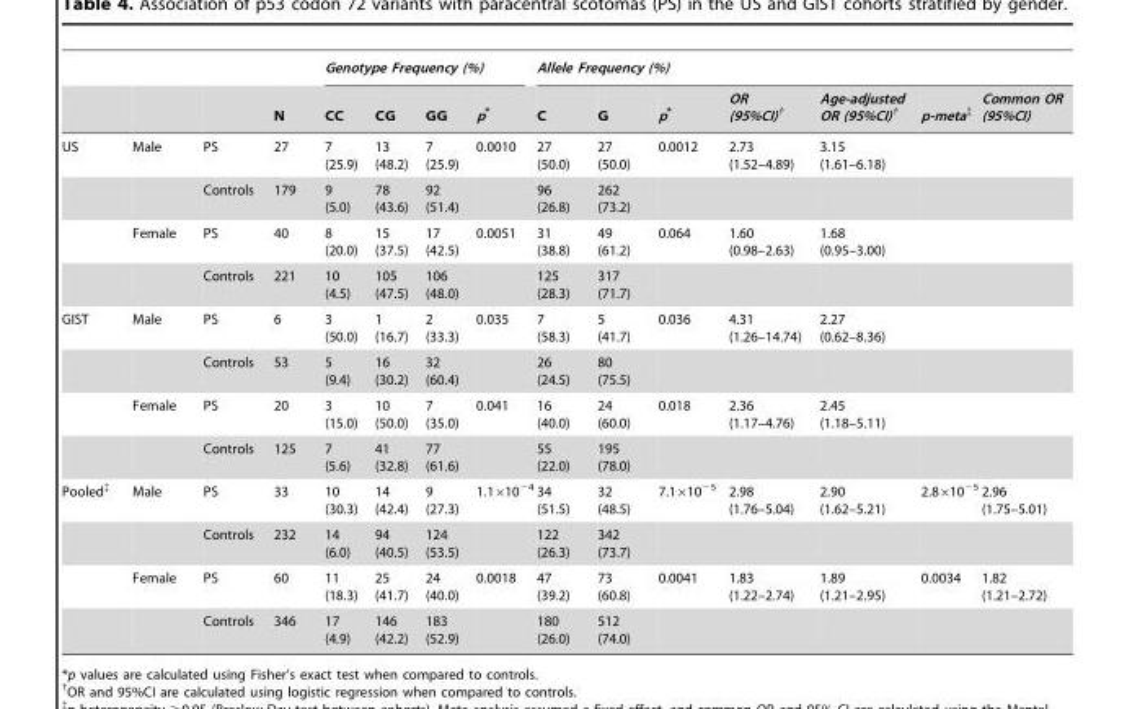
<table><thead><tr><td rowspan="2"></td><td rowspan="2"></td><td rowspan="2"></td><td rowspan="2">N</td><td colspan="4">Genotype Frequency (%)</td><td colspan="7">Allele Frequency (%)</td></tr><tr><td>CC</td><td>CG</td><td>GG</td><td>p*</td><td>C</td><td>G</td><td>p*</td><td>OR (95%CI)†</td><td>Age-adjusted OR (95%CI)†</td><td>p-meta‡</td><td>Common OR (95%CI)</td></tr></thead><tbody><tr><td rowspan="4">US</td><td>Male</td><td>PS</td><td>27</td><td>7 (25.9)</td><td>13 (48.2)</td><td>7 (25.9)</td><td>0.0010</td><td>27 (50.0)</td><td>27 (50.0)</td><td>0.0012</td><td>2.73 (1.52–4.89)</td><td>3.15 (1.61–6.18)</td><td></td><td></td></tr><tr><td></td><td>Controls</td><td>179</td><td>9 (5.0)</td><td>78 (43.6)</td><td>92 (51.4)</td><td></td><td>96 (26.8)</td><td>262 (73.2)</td><td></td><td></td><td></td><td></td><td></td></tr><tr><td>Female</td><td>PS</td><td>40</td><td>8 (20.0)</td><td>15 (37.5)</td><td>17 (42.5)</td><td>0.0051</td><td>31 (38.8)</td><td>49 (61.2)</td><td>0.064</td><td>1.60 (0.98–2.63)</td><td>1.68 (0.95–3.00)</td><td></td><td></td></tr><tr><td></td><td>Controls</td><td>221</td><td>10 (4.5)</td><td>105 (47.5)</td><td>106 (48.0)</td><td></td><td>125 (28.3)</td><td>317 (71.7)</td><td></td><td></td><td></td><td></td><td></td></tr><tr><td rowspan="4">GIST</td><td>Male</td><td>PS</td><td>6</td><td>3 (50.0)</td><td>1 (16.7)</td><td>2 (33.3)</td><td>0.035</td><td>7 (58.3)</td><td>5 (41.7)</td><td>0.036</td><td>4.31 (1.26–14.74)</td><td>2.27 (0.62–8.36)</td><td></td><td></td></tr><tr><td></td><td>Controls</td><td>53</td><td>5 (9.4)</td><td>16 (30.2)</td><td>32 (60.4)</td><td></td><td>26 (24.5)</td><td>80 (75.5)</td><td></td><td></td><td></td><td></td><td></td></tr><tr><td>Female</td><td>PS</td><td>20</td><td>3 (15.0)</td><td>10 (50.0)</td><td>7 (35.0)</td><td>0.041</td><td>16 (40.0)</td><td>24 (60.0)</td><td>0.018</td><td>2.36 (1.17–4.76)</td><td>2.45 (1.18–5.11)</td><td></td><td></td></tr><tr><td></td><td>Controls</td><td>125</td><td>7 (5.6)</td><td>41 (32.8)</td><td>77 (61.6)</td><td></td><td>55 (22.0)</td><td>195 (78.0)</td><td></td><td></td><td></td><td></td><td></td></tr><tr><td rowspan="4">Pooled‡</td><td>Male</td><td>PS</td><td>33</td><td>10 (30.3)</td><td>14 (42.4)</td><td>9 (27.3)</td><td>1.1×10<sup>−4</sup></td><td>34 (51.5)</td><td>32 (48.5)</td><td>7.1×10<sup>−5</sup></td><td>2.98 (1.76–5.04)</td><td>2.90 (1.62–5.21)</td><td>2.8×10<sup>−5</sup></td><td>2.96 (1.75–5.01)</td></tr><tr><td></td><td>Controls</td><td>232</td><td>14 (6.0)</td><td>94 (40.5)</td><td>124 (53.5)</td><td></td><td>122 (26.3)</td><td>342 (73.7)</td><td></td><td></td><td></td><td></td><td></td></tr><tr><td>Female</td><td>PS</td><td>60</td><td>11 (18.3)</td><td>25 (41.7)</td><td>24 (40.0)</td><td>0.0018</td><td>47 (39.2)</td><td>73 (60.8)</td><td>0.0041</td><td>1.83 (1.22–2.74)</td><td>1.89 (1.21–2.95)</td><td>0.0034</td><td>1.82 (1.21–2.72)</td></tr><tr><td></td><td>Controls</td><td>346</td><td>17 (4.9)</td><td>146 (42.2)</td><td>183 (52.9)</td><td></td><td>180 (26.0)</td><td>512 (74.0)</td><td></td><td></td><td></td><td></td><td></td></tr></tbody></table>